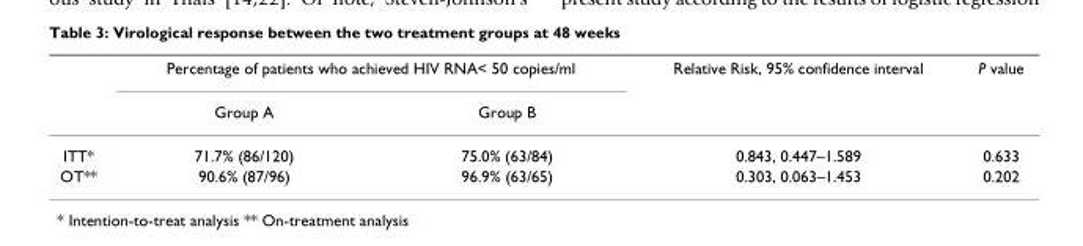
<table><thead><tr><td rowspan="2"></td><td colspan="2">Percentage of patients who achieved HIV RNA&lt; 50 copies/ml</td><td rowspan="2">Relative Risk, 95% confidence interval</td><td rowspan="2">P value</td></tr><tr><td>Group A</td><td>Group B</td></tr></thead><tbody><tr><td>ITT*</td><td>71.7% (86/120)</td><td>75.0% (63/84)</td><td>0.843, 0.447–1.589</td><td>0.633</td></tr><tr><td>OT**</td><td>90.6% (87/96)</td><td>96.9% (63/65)</td><td>0.303, 0.063–1.453</td><td>0.202</td></tr></tbody></table>